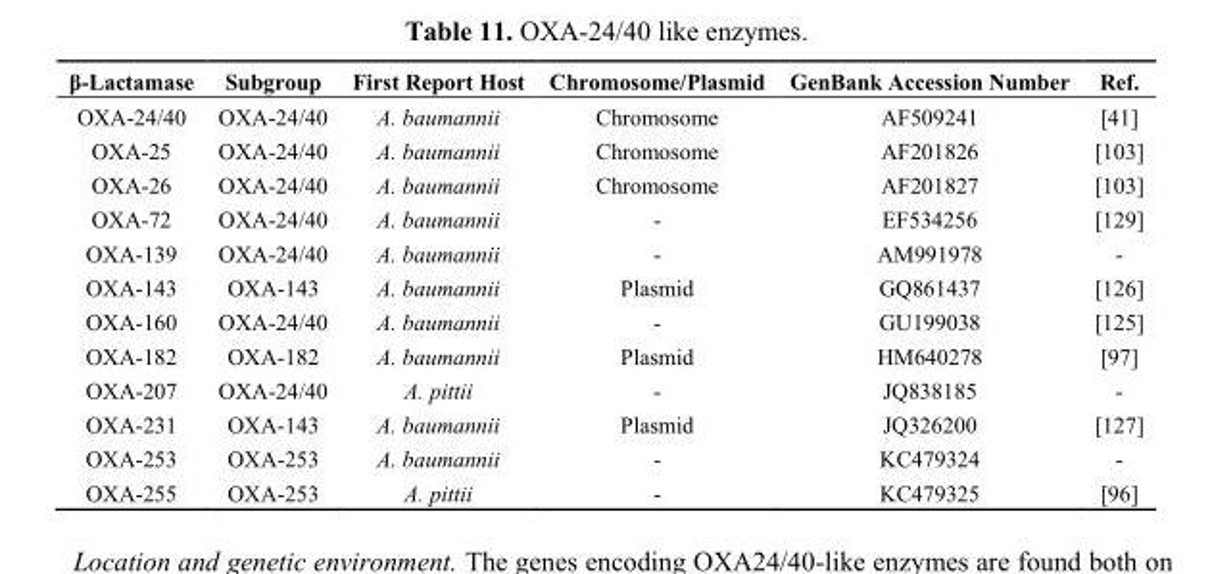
<table><thead><tr><td>β-Lactamase</td><td>Subgroup</td><td>First Report Host</td><td>Chromosome/Plasmid</td><td>GenBank Accession Number</td><td>Ref.</td></tr></thead><tbody><tr><td>OXA-24/40</td><td>OXA-24/40</td><td>A. baumannii</td><td>Chromosome</td><td>AF509241</td><td>[41]</td></tr><tr><td>OXA-25</td><td>OXA-24/40</td><td>A. baumannii</td><td>Chromosome</td><td>AF201826</td><td>[103]</td></tr><tr><td>OXA-26</td><td>OXA-24/40</td><td>A. baumannii</td><td>Chromosome</td><td>AF201827</td><td>[103]</td></tr><tr><td>OXA-72</td><td>OXA-24/40</td><td>A. baumannii</td><td>-</td><td>EF534256</td><td>[129]</td></tr><tr><td>OXA-139</td><td>OXA-24/40</td><td>A. baumannii</td><td>-</td><td>AM991978</td><td>-</td></tr><tr><td>OXA-143</td><td>OXA-143</td><td>A. baumannii</td><td>Plasmid</td><td>GQ861437</td><td>[126]</td></tr><tr><td>OXA-160</td><td>OXA-24/40</td><td>A. baumannii</td><td>-</td><td>GU199038</td><td>[125]</td></tr><tr><td>OXA-182</td><td>OXA-182</td><td>A. baumannii</td><td>Plasmid</td><td>HM640278</td><td>[97]</td></tr><tr><td>OXA-207</td><td>OXA-24/40</td><td>A. pittii</td><td>-</td><td>JQ838185</td><td>-</td></tr><tr><td>OXA-231</td><td>OXA-143</td><td>A. baumannii</td><td>Plasmid</td><td>JQ326200</td><td>[127]</td></tr><tr><td>OXA-253</td><td>OXA-253</td><td>A. baumannii</td><td>-</td><td>KC479324</td><td>-</td></tr><tr><td>OXA-255</td><td>OXA-253</td><td>A. pittii</td><td>-</td><td>KC479325</td><td>[96]</td></tr></tbody></table>